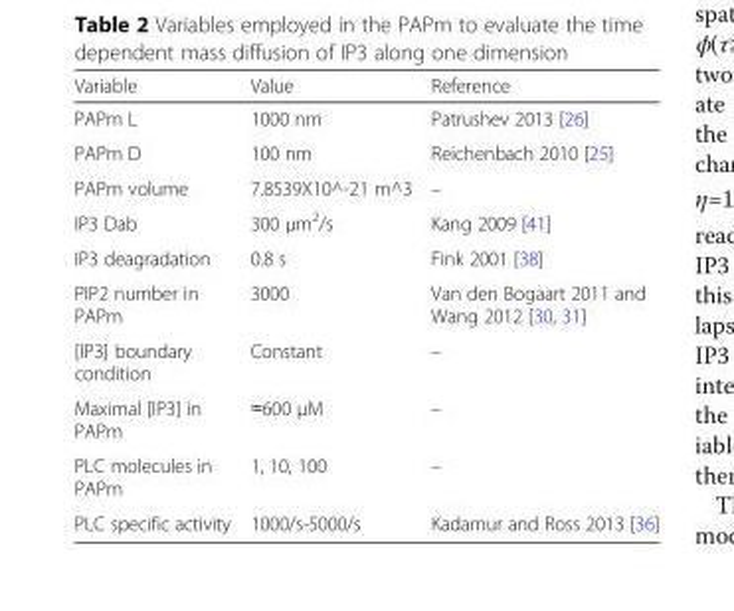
<table><thead><tr><td>Variable</td><td>Value</td><td>Reference</td></tr></thead><tbody><tr><td>PAPm L</td><td>1000 nm</td><td>Patrushev 2013 [26]</td></tr><tr><td>PAPm D</td><td>100 nm</td><td>Reichenbach 2010 [25]</td></tr><tr><td>PAPm volume</td><td>7.8539X10^-21 m^3</td><td>–</td></tr><tr><td>IP3 Dab</td><td>300 μm<sup>2</sup>/s</td><td>Kang 2009 [41]</td></tr><tr><td>IP3 deagradation</td><td>0.8 s</td><td>Fink 2001 [38]</td></tr><tr><td>PIP2 number in PAPm</td><td>3000</td><td>Van den Bogaart 2011 and Wang 2012 [30, 31]</td></tr><tr><td>[IP3] boundary condition</td><td>Constant</td><td>–</td></tr><tr><td>Maximal [IP3] in PAPm</td><td>≈600 μM</td><td>–</td></tr><tr><td>PLC molecules in PAPm</td><td>1, 10, 100</td><td>–</td></tr><tr><td>PLC specific activity</td><td>1000/s-5000/s</td><td>Kadamur and Ross 2013 [36]</td></tr></tbody></table>